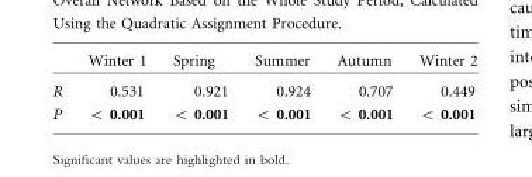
<table><thead><tr><td></td><td>Winter 1</td><td>Spring</td><td>Summer</td><td>Autumn</td><td>Winter 2</td></tr></thead><tbody><tr><td>R</td><td>0.531</td><td>0.921</td><td>0.924</td><td>0.707</td><td>0.449</td></tr><tr><td>P</td><td>&lt; 0.001</td><td>&lt; 0.001</td><td>&lt; 0.001</td><td>&lt; 0.001</td><td>&lt; 0.001</td></tr></tbody></table>